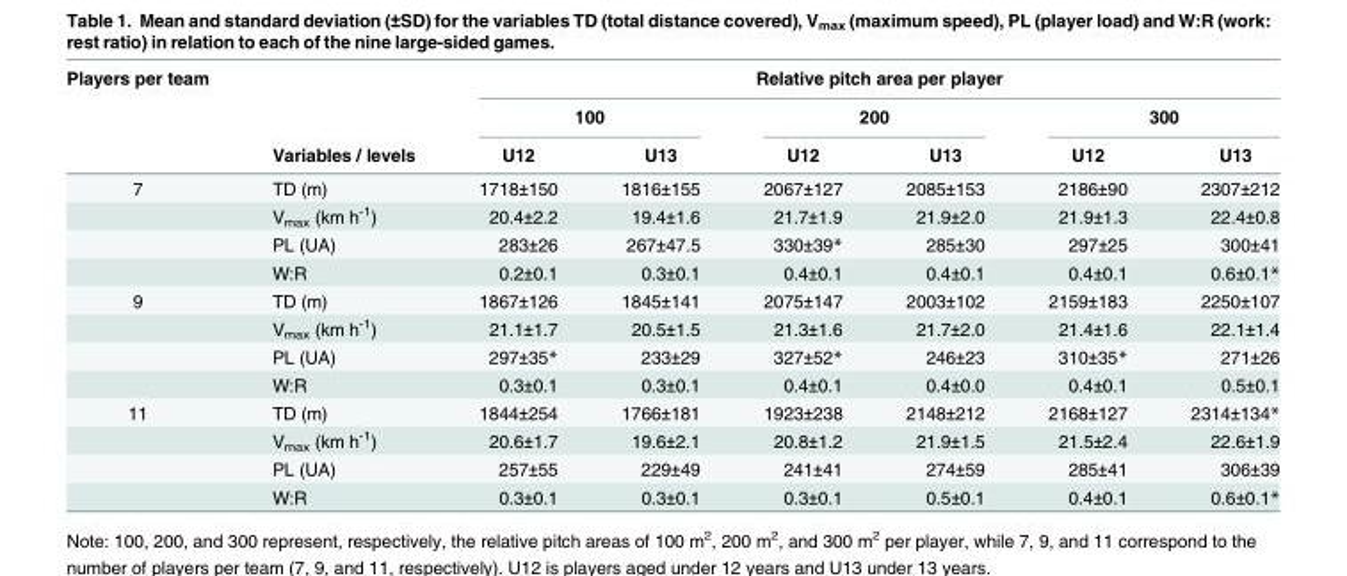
<table><thead><tr><td rowspan="3">Players per team</td><td rowspan="3">Variables / levels</td><td colspan="6">Relative pitch area per player</td></tr><tr><td colspan="2">100</td><td colspan="2">200</td><td colspan="2">300</td></tr><tr><td>U12</td><td>U13</td><td>U12</td><td>U13</td><td>U12</td><td>U13</td></tr></thead><tbody><tr><td rowspan="4">7</td><td>TD (m)</td><td>1718±150</td><td>1816±155</td><td>2067±127</td><td>2085±153</td><td>2186±90</td><td>2307±212</td></tr><tr><td>V<sub>max</sub> (km h<sup>-1</sup>)</td><td>20.4±2.2</td><td>19.4±1.6</td><td>21.7±1.9</td><td>21.9±2.0</td><td>21.9±1.3</td><td>22.4±0.8</td></tr><tr><td>PL (UA)</td><td>283±26</td><td>267±47.5</td><td>330±39*</td><td>285±30</td><td>297±25</td><td>300±41</td></tr><tr><td>W:R</td><td>0.2±0.1</td><td>0.3±0.1</td><td>0.4±0.1</td><td>0.4±0.1</td><td>0.4±0.1</td><td>0.6±0.1*</td></tr><tr><td rowspan="4">9</td><td>TD (m)</td><td>1867±126</td><td>1845±141</td><td>2075±147</td><td>2003±102</td><td>2159±183</td><td>2250±107</td></tr><tr><td>V<sub>max</sub> (km h<sup>-1</sup>)</td><td>21.1±1.7</td><td>20.5±1.5</td><td>21.3±1.6</td><td>21.7±2.0</td><td>21.4±1.6</td><td>22.1±1.4</td></tr><tr><td>PL (UA)</td><td>297±35*</td><td>233±29</td><td>327±52*</td><td>246±23</td><td>310±35*</td><td>271±26</td></tr><tr><td>W:R</td><td>0.3±0.1</td><td>0.3±0.1</td><td>0.4±0.1</td><td>0.4±0.0</td><td>0.4±0.1</td><td>0.5±0.1</td></tr><tr><td rowspan="4">11</td><td>TD (m)</td><td>1844±254</td><td>1766±181</td><td>1923±238</td><td>2148±212</td><td>2168±127</td><td>2314±134*</td></tr><tr><td>V<sub>max</sub> (km h<sup>-1</sup>)</td><td>20.6±1.7</td><td>19.6±2.1</td><td>20.8±1.2</td><td>21.9±1.5</td><td>21.5±2.4</td><td>22.6±1.9</td></tr><tr><td>PL (UA)</td><td>257±55</td><td>229±49</td><td>241±41</td><td>274±59</td><td>285±41</td><td>306±39</td></tr><tr><td>W:R</td><td>0.3±0.1</td><td>0.3±0.1</td><td>0.3±0.1</td><td>0.5±0.1</td><td>0.4±0.1</td><td>0.6±0.1*</td></tr></tbody></table>